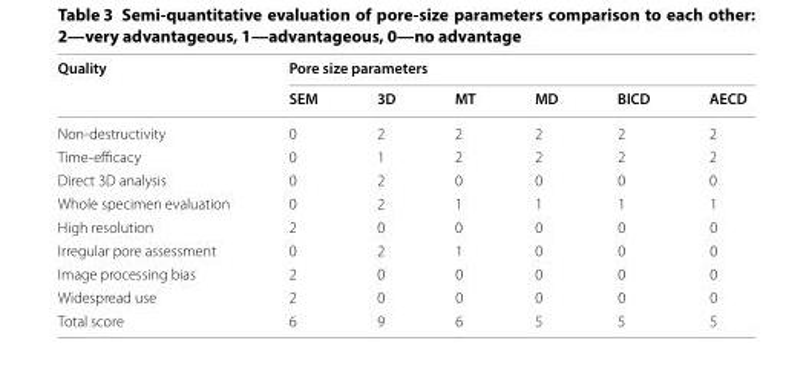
<table><thead><tr><td rowspan="2">Quality</td><td colspan="6">Pore size parameters</td></tr><tr><td>SEM</td><td>3D</td><td>MT</td><td>MD</td><td>BICD</td><td>AECD</td></tr></thead><tbody><tr><td>Non-destructivity</td><td>0</td><td>2</td><td>2</td><td>2</td><td>2</td><td>2</td></tr><tr><td>Time-efficacy</td><td>0</td><td>1</td><td>2</td><td>2</td><td>2</td><td>2</td></tr><tr><td>Direct 3D analysis</td><td>0</td><td>2</td><td>0</td><td>0</td><td>0</td><td>0</td></tr><tr><td>Whole specimen evaluation</td><td>0</td><td>2</td><td>1</td><td>1</td><td>1</td><td>1</td></tr><tr><td>High resolution</td><td>2</td><td>0</td><td>0</td><td>0</td><td>0</td><td>0</td></tr><tr><td>Irregular pore assessment</td><td>0</td><td>2</td><td>1</td><td>0</td><td>0</td><td>0</td></tr><tr><td>Image processing bias</td><td>2</td><td>0</td><td>0</td><td>0</td><td>0</td><td>0</td></tr><tr><td>Widespread use</td><td>2</td><td>0</td><td>0</td><td>0</td><td>0</td><td>0</td></tr><tr><td>Total score</td><td>6</td><td>9</td><td>6</td><td>5</td><td>5</td><td>5</td></tr></tbody></table>